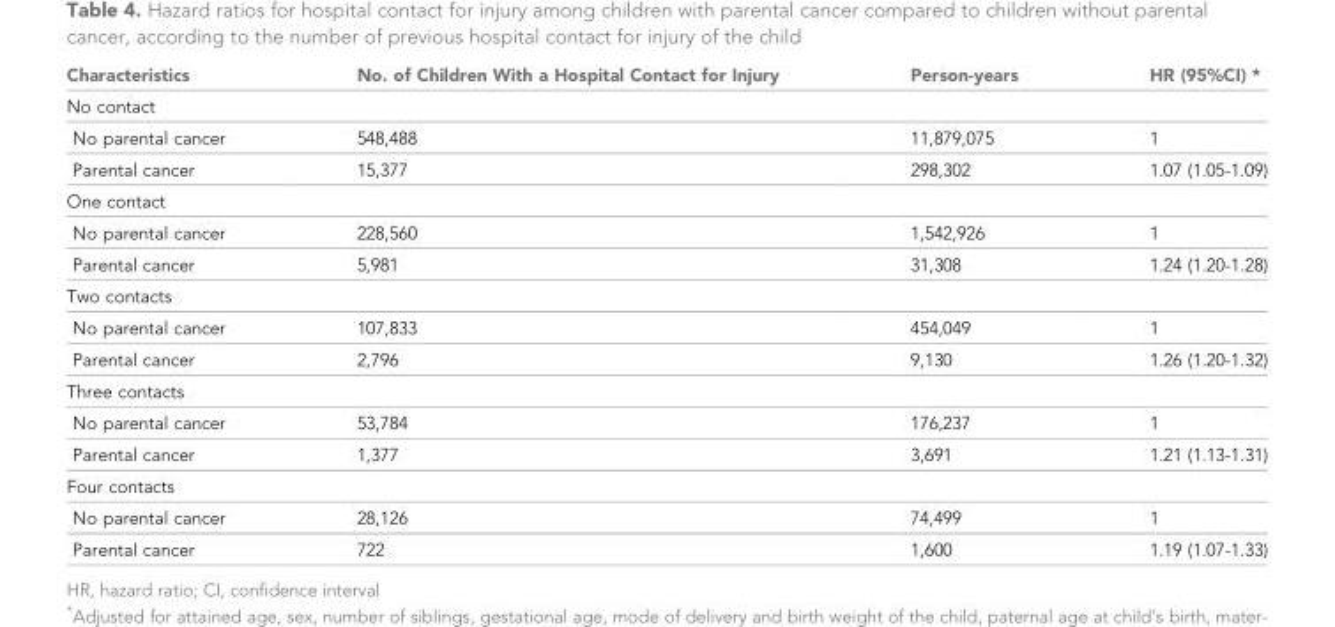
<table><thead><tr><td>Characteristics</td><td>No. of Children With a Hospital Contact for Injury</td><td>Person-years</td><td>HR (95%CI) *</td></tr></thead><tbody><tr><td colspan="4">No contact</td></tr><tr><td>No parental cancer</td><td>548,488</td><td>11,879,075</td><td>1</td></tr><tr><td>Parental cancer</td><td>15,377</td><td>298,302</td><td>1.07 (1.05-1.09)</td></tr><tr><td colspan="4">One contact</td></tr><tr><td>No parental cancer</td><td>228,560</td><td>1,542,926</td><td>1</td></tr><tr><td>Parental cancer</td><td>5,981</td><td>31,308</td><td>1.24 (1.20-1.28)</td></tr><tr><td colspan="4">Two contacts</td></tr><tr><td>No parental cancer</td><td>107,833</td><td>454,049</td><td>1</td></tr><tr><td>Parental cancer</td><td>2,796</td><td>9,130</td><td>1.26 (1.20-1.32)</td></tr><tr><td colspan="4">Three contacts</td></tr><tr><td>No parental cancer</td><td>53,784</td><td>176,237</td><td>1</td></tr><tr><td>Parental cancer</td><td>1,377</td><td>3,691</td><td>1.21 (1.13-1.31)</td></tr><tr><td colspan="4">Four contacts</td></tr><tr><td>No parental cancer</td><td>28,126</td><td>74,499</td><td>1</td></tr><tr><td>Parental cancer</td><td>722</td><td>1,600</td><td>1.19 (1.07-1.33)</td></tr></tbody></table>